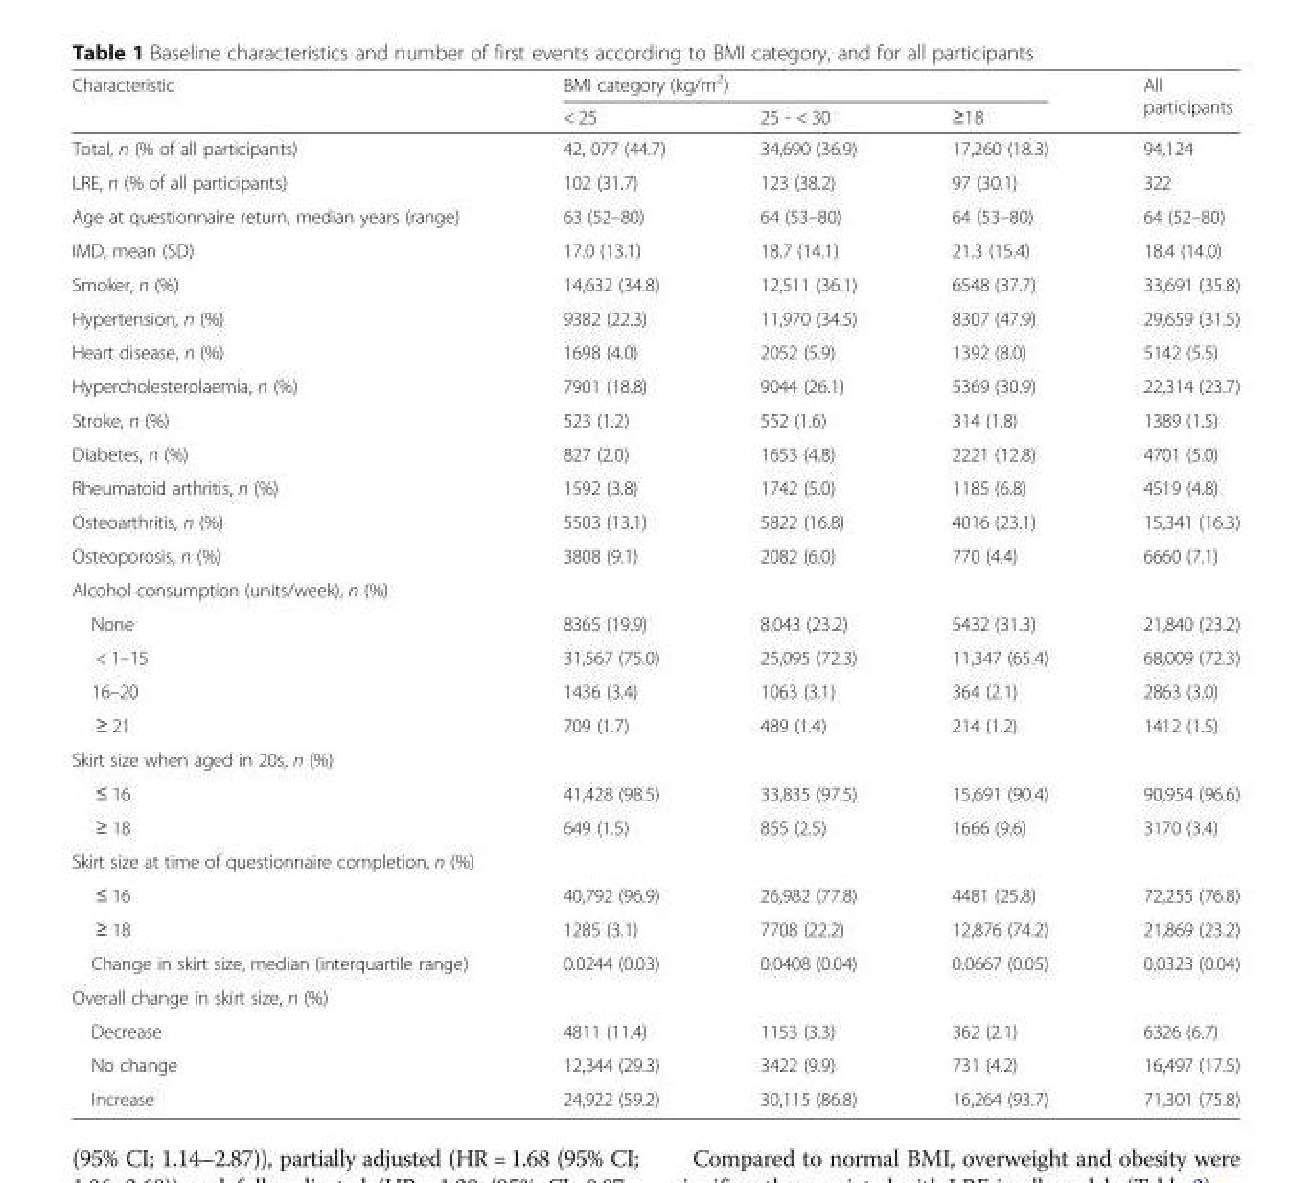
<table><thead><tr><td rowspan="2">Characteristic</td><td colspan="3">BMI category (kg/m<sup>2</sup>)</td><td rowspan="2">All participants</td></tr><tr><td>&lt; 25</td><td>25 - &lt; 30</td><td>≥18</td></tr></thead><tbody><tr><td>Total, n (% of all participants)</td><td>42, 077 (44.7)</td><td>34,690 (36.9)</td><td>17,260 (18.3)</td><td>94,124</td></tr><tr><td>LRE, n (% of all participants)</td><td>102 (31.7)</td><td>123 (38.2)</td><td>97 (30.1)</td><td>322</td></tr><tr><td>Age at questionnaire return, median years (range)</td><td>63 (52–80)</td><td>64 (53–80)</td><td>64 (53–80)</td><td>64 (52–80)</td></tr><tr><td>IMD, mean (SD)</td><td>17.0 (13.1)</td><td>18.7 (14.1)</td><td>21.3 (15.4)</td><td>18.4 (14.0)</td></tr><tr><td>Smoker, n (%)</td><td>14,632 (34.8)</td><td>12,511 (36.1)</td><td>6548 (37.7)</td><td>33,691 (35.8)</td></tr><tr><td>Hypertension, n (%)</td><td>9382 (22.3)</td><td>11,970 (34.5)</td><td>8307 (47.9)</td><td>29,659 (31.5)</td></tr><tr><td>Heart disease, n (%)</td><td>1698 (4.0)</td><td>2052 (5.9)</td><td>1392 (8.0)</td><td>5142 (5.5)</td></tr><tr><td>Hypercholesterolaemia, n (%)</td><td>7901 (18.8)</td><td>9044 (26.1)</td><td>5369 (30.9)</td><td>22,314 (23.7)</td></tr><tr><td>Stroke, n (%)</td><td>523 (1.2)</td><td>552 (1.6)</td><td>314 (1.8)</td><td>1389 (1.5)</td></tr><tr><td>Diabetes, n (%)</td><td>827 (2.0)</td><td>1653 (4.8)</td><td>2221 (12.8)</td><td>4701 (5.0)</td></tr><tr><td>Rheumatoid arthritis, n (%)</td><td>1592 (3.8)</td><td>1742 (5.0)</td><td>1185 (6.8)</td><td>4519 (4.8)</td></tr><tr><td>Osteoarthritis, n (%)</td><td>5503 (13.1)</td><td>5822 (16.8)</td><td>4016 (23.1)</td><td>15,341 (16.3)</td></tr><tr><td>Osteoporosis, n (%)</td><td>3808 (9.1)</td><td>2082 (6.0)</td><td>770 (4.4)</td><td>6660 (7.1)</td></tr><tr><td colspan="5">Alcohol consumption (units/week), n (%)</td></tr><tr><td>None</td><td>8365 (19.9)</td><td>8.043 (23.2)</td><td>5432 (31.3)</td><td>21,840 (23.2)</td></tr><tr><td>&lt; 1–15</td><td>31,567 (75.0)</td><td>25,095 (72.3)</td><td>11,347 (65.4)</td><td>68,009 (72.3)</td></tr><tr><td>16–20</td><td>1436 (3.4)</td><td>1063 (3.1)</td><td>364 (2.1)</td><td>2863 (3.0)</td></tr><tr><td>≥ 21</td><td>709 (1.7)</td><td>489 (1.4)</td><td>214 (1.2)</td><td>1412 (1.5)</td></tr><tr><td colspan="5">Skirt size when aged in 20s, n (%)</td></tr><tr><td>≤ 16</td><td>41,428 (98.5)</td><td>33,835 (97.5)</td><td>15,691 (90.4)</td><td>90,954 (96.6)</td></tr><tr><td>≥ 18</td><td>649 (1.5)</td><td>855 (2.5)</td><td>1666 (9.6)</td><td>3170 (3.4)</td></tr><tr><td colspan="5">Skirt size at time of questionnaire completion, n (%)</td></tr><tr><td>≤ 16</td><td>40,792 (96.9)</td><td>26,982 (77.8)</td><td>4481 (25.8)</td><td>72,255 (76.8)</td></tr><tr><td>≥ 18</td><td>1285 (3.1)</td><td>7708 (22.2)</td><td>12,876 (74.2)</td><td>21,869 (23.2)</td></tr><tr><td>Change in skirt size, median (interquartile range)</td><td>0.0244 (0.03)</td><td>0.0408 (0.04)</td><td>0.0667 (0.05)</td><td>0.0323 (0.04)</td></tr><tr><td colspan="5">Overall change in skirt size, n (%)</td></tr><tr><td>Decrease</td><td>4811 (11.4)</td><td>1153 (3.3)</td><td>362 (2.1)</td><td>6326 (6.7)</td></tr><tr><td>No change</td><td>12,344 (29.3)</td><td>3422 (9.9)</td><td>731 (4.2)</td><td>16,497 (17.5)</td></tr><tr><td>Increase</td><td>24,922 (59.2)</td><td>30,115 (86.8)</td><td>16,264 (93.7)</td><td>71,301 (75.8)</td></tr></tbody></table>